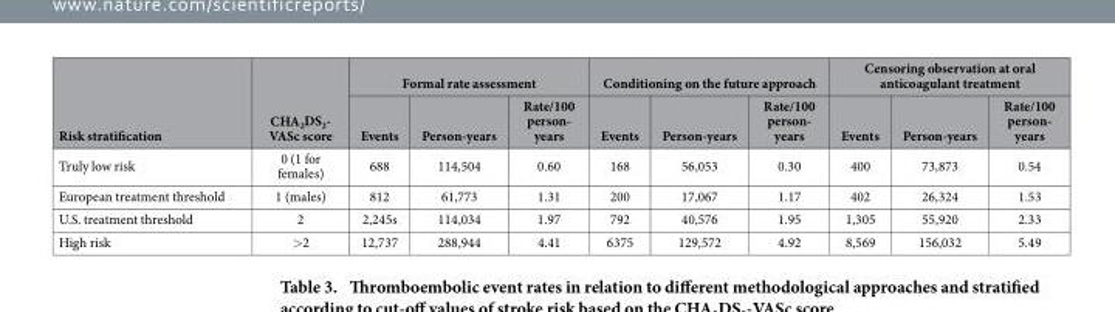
<table><thead><tr><td rowspan="2">Risk stratification</td><td rowspan="2">CHA<sub>2</sub>DS<sub>2</sub>- VASc score</td><td colspan="3">Formal rate assessment</td><td colspan="3">Conditioning on the future approach</td><td colspan="3">Censoring observation at oral anticoagulant treatment</td></tr><tr><td>Events</td><td>Person-years</td><td>Rate/100 person- years</td><td>Events</td><td>Person-years</td><td>Rate/100 person- years</td><td>Events</td><td>Person-years</td><td>Rate/100 person- years</td></tr></thead><tbody><tr><td>Truly low risk</td><td>0 (1 for females)</td><td>688</td><td>114,504</td><td>0.60</td><td>168</td><td>56,053</td><td>0.30</td><td>400</td><td>73,873</td><td>0.54</td></tr><tr><td>European treatment threshold</td><td>1 (males)</td><td>812</td><td>61,773</td><td>1.31</td><td>200</td><td>17,067</td><td>1.17</td><td>402</td><td>26,324</td><td>1.53</td></tr><tr><td>U.S. treatment threshold</td><td>2</td><td>2,245s</td><td>114,034</td><td>1.97</td><td>792</td><td>40,576</td><td>1.95</td><td>1,305</td><td>55,920</td><td>2.33</td></tr><tr><td>High risk</td><td>&gt; 2</td><td>12,737</td><td>288,944</td><td>4.41</td><td>6375</td><td>129,572</td><td>4.92</td><td>8,569</td><td>156,032</td><td>5.49</td></tr></tbody></table>